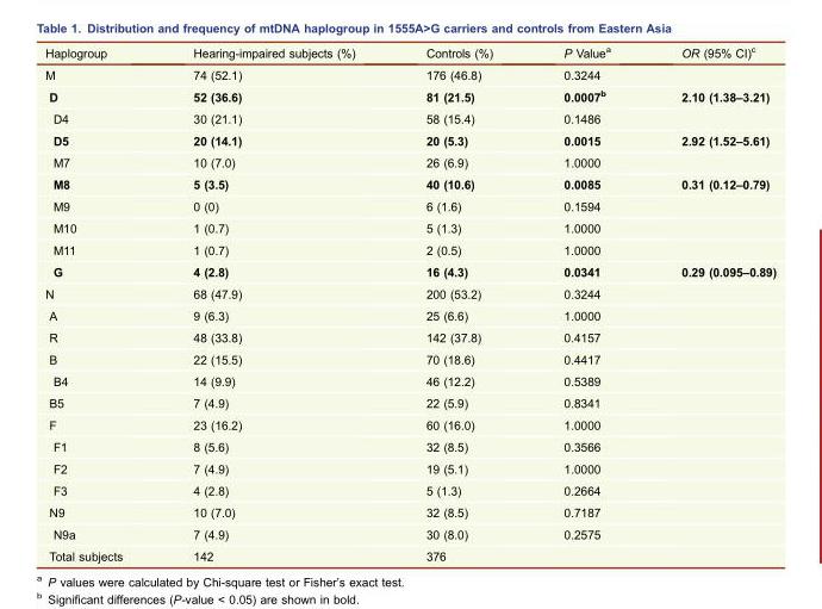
<table><thead><tr><td>Haplogroup</td><td>Hearing-impaired subjects (%)</td><td>Controls (%)</td><td>P Value<sup>a</sup></td><td>OR (95% CI)<sup>c</sup></td></tr></thead><tbody><tr><td>M</td><td>74 (52.1)</td><td>176 (46.8)</td><td>0.3244</td><td></td></tr><tr><td>D</td><td>52 (36.6)</td><td>81 (21.5)</td><td>0.0007<sup>b</sup></td><td>2.10 (1.38–3.21)</td></tr><tr><td>D4</td><td>30 (21.1)</td><td>58 (15.4)</td><td>0.1486</td><td></td></tr><tr><td>D5</td><td>20 (14.1)</td><td>20 (5.3)</td><td>0.0015</td><td>2.92 (1.52–5.61)</td></tr><tr><td>M7</td><td>10 (7.0)</td><td>26 (6.9)</td><td>1.0000</td><td></td></tr><tr><td>M8</td><td>5 (3.5)</td><td>40 (10.6)</td><td>0.0085</td><td>0.31 (0.12–0.79)</td></tr><tr><td>M9</td><td>0 (0)</td><td>6 (1.6)</td><td>0.1594</td><td></td></tr><tr><td>M10</td><td>1 (0.7)</td><td>5 (1.3)</td><td>1.0000</td><td></td></tr><tr><td>M11</td><td>1 (0.7)</td><td>2 (0.5)</td><td>1.0000</td><td></td></tr><tr><td>G</td><td>4 (2.8)</td><td>16 (4.3)</td><td>0.0341</td><td>0.29 (0.095–0.89)</td></tr><tr><td>N</td><td>68 (47.9)</td><td>200 (53.2)</td><td>0.3244</td><td></td></tr><tr><td>A</td><td>9 (6.3)</td><td>25 (6.6)</td><td>1.0000</td><td></td></tr><tr><td>R</td><td>48 (33.8)</td><td>142 (37.8)</td><td>0.4157</td><td></td></tr><tr><td>B</td><td>22 (15.5)</td><td>70 (18.6)</td><td>0.4417</td><td></td></tr><tr><td>B4</td><td>14 (9.9)</td><td>46 (12.2)</td><td>0.5389</td><td></td></tr><tr><td>B5</td><td>7 (4.9)</td><td>22 (5.9)</td><td>0.8341</td><td></td></tr><tr><td>F</td><td>23 (16.2)</td><td>60 (16.0)</td><td>1.0000</td><td></td></tr><tr><td>F1</td><td>8 (5.6)</td><td>32 (8.5)</td><td>0.3566</td><td></td></tr><tr><td>F2</td><td>7 (4.9)</td><td>19 (5.1)</td><td>1.0000</td><td></td></tr><tr><td>F3</td><td>4 (2.8)</td><td>5 (1.3)</td><td>0.2664</td><td></td></tr><tr><td>N9</td><td>10 (7.0)</td><td>32 (8.5)</td><td>0.7187</td><td></td></tr><tr><td>N9a</td><td>7 (4.9)</td><td>30 (8.0)</td><td>0.2575</td><td></td></tr><tr><td>Total subjects</td><td>142</td><td>376</td><td></td><td></td></tr></tbody></table>